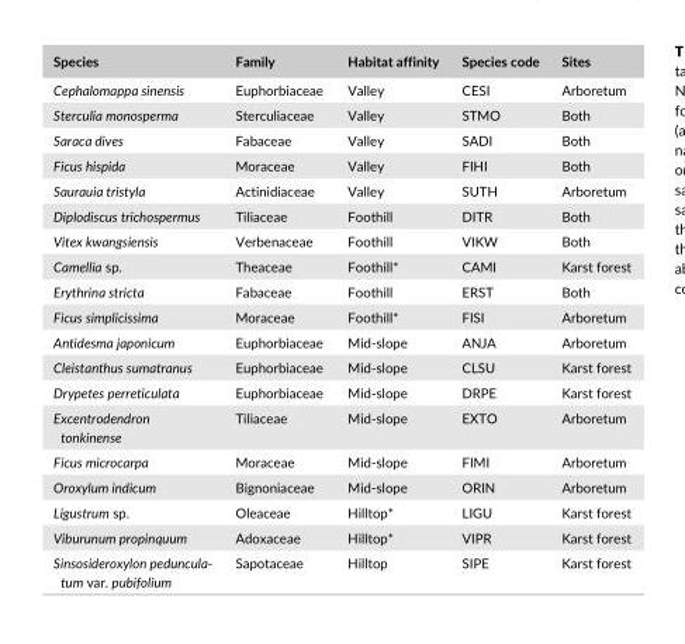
<table><thead><tr><td>Species</td><td>Family</td><td>Habitat affinity</td><td>Species code</td><td>Sites</td></tr></thead><tbody><tr><td>Cephalomappa sinensis</td><td>Euphorbiaceae</td><td>Valley</td><td>CESI</td><td>Arboretum</td></tr><tr><td>Sterculia monosperma</td><td>Sterculiaceae</td><td>Valley</td><td>STMO</td><td>Both</td></tr><tr><td>Saraca dives</td><td>Fabaceae</td><td>Valley</td><td>SADI</td><td>Both</td></tr><tr><td>Ficus hispida</td><td>Moraceae</td><td>Valley</td><td>FIHI</td><td>Both</td></tr><tr><td>Saurauia tristyla</td><td>Actinidiaceae</td><td>Valley</td><td>SUTH</td><td>Arboretum</td></tr><tr><td>Diplodiscus trichospermus</td><td>Tiliaceae</td><td>Foothill</td><td>DITR</td><td>Both</td></tr><tr><td>Vitex kwangsiensis</td><td>Verbenaceae</td><td>Foothill</td><td>VIKW</td><td>Both</td></tr><tr><td>Camellia sp.</td><td>Theaceae</td><td>Foothill*</td><td>CAMI</td><td>Karst forest</td></tr><tr><td>Erythrina stricta</td><td>Fabaceae</td><td>Foothill</td><td>ERST</td><td>Both</td></tr><tr><td>Ficus simplicissima</td><td>Moraceae</td><td>Foothill*</td><td>FISI</td><td>Arboretum</td></tr><tr><td>Antidesma japonicum</td><td>Euphorbiaceae</td><td>Mid- slope</td><td>ANJA</td><td>Arboretum</td></tr><tr><td>Cleistanthus sumatranus</td><td>Euphorbiaceae</td><td>Mid- slope</td><td>CLSU</td><td>Karst forest</td></tr><tr><td>Drypetes perreticulata</td><td>Euphorbiaceae</td><td>Mid- slope</td><td>DRPE</td><td>Karst forest</td></tr><tr><td>Excentrodendron tonkinense</td><td>Tiliaceae</td><td>Mid- slope</td><td>EXTO</td><td>Arboretum</td></tr><tr><td>Ficus microcarpa</td><td>Moraceae</td><td>Mid- slope</td><td>FIMI</td><td>Arboretum</td></tr><tr><td>Oroxylum indicum</td><td>Bignoniaceae</td><td>Mid- slope</td><td>ORIN</td><td>Arboretum</td></tr><tr><td>Ligustrum sp.</td><td>Oleaceae</td><td>Hilltop*</td><td>LIGU</td><td>Karst forest</td></tr><tr><td>Viburunum propinquum</td><td>Adoxaceae</td><td>Hilltop*</td><td>VIPR</td><td>Karst forest</td></tr><tr><td>Sinsosideroxylon peduncula- tum var. pubifolium</td><td>Sapotaceae</td><td>Hilltop</td><td>SIPE</td><td>Karst forest</td></tr></tbody></table>